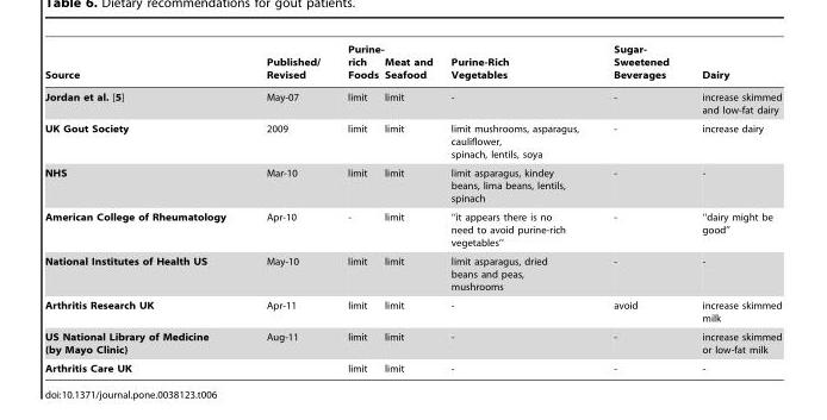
<table><thead><tr><td>Source</td><td>Published/ Revised</td><td>Purine- rich Foods</td><td>Meat and Seafood</td><td>Purine-Rich Vegetables</td><td>Sugar- Sweetened Beverages</td><td>Dairy</td></tr></thead><tbody><tr><td>Jordan et al. [5]</td><td>May-07</td><td>limit</td><td>limit</td><td>-</td><td>-</td><td>increase skimmed and low-fat dairy</td></tr><tr><td>UK Gout Society</td><td>2009</td><td>limit</td><td>limit</td><td>limit mushrooms, asparagus, cauliflower, spinach, lentils, soya</td><td>-</td><td>increase dairy</td></tr><tr><td>NHS</td><td>Mar-10</td><td>limit</td><td>limit</td><td>limit asparagus, kindey beans, lima beans, lentils, spinach</td><td>-</td><td>-</td></tr><tr><td>American College of Rheumatology</td><td>Apr-10</td><td>-</td><td>limit</td><td>‘‘it appears there is no need to avoid purine-rich vegetables’’</td><td>-</td><td>‘‘dairy might be good’’</td></tr><tr><td>National Institutes of Health US</td><td>May-10</td><td>limit</td><td>limit</td><td>limit asparagus, dried beans and peas, mushrooms</td><td>-</td><td>-</td></tr><tr><td>Arthritis Research UK</td><td>Apr-11</td><td>limit</td><td>limit</td><td>-</td><td>avoid</td><td>increase skimmed milk</td></tr><tr><td>US National Library of Medicine (by Mayo Clinic)</td><td>Aug-11</td><td>limit</td><td>limit</td><td>-</td><td>-</td><td>increase skimmed or low-fat milk</td></tr><tr><td>Arthritis Care UK</td><td></td><td>limit</td><td>limit</td><td>-</td><td>-</td><td>-</td></tr></tbody></table>